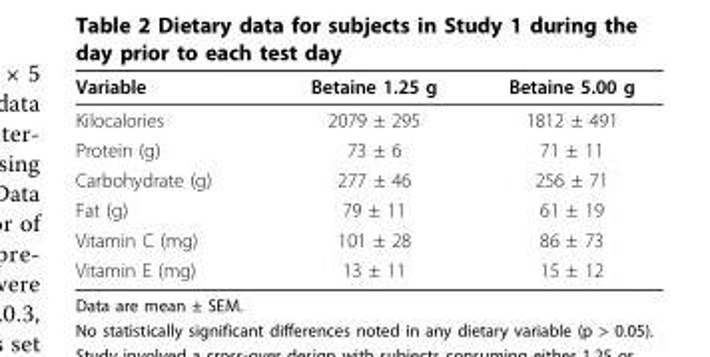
<table><thead><tr><td>Variable</td><td>Betaine 1.25 g</td><td>Betaine 5.00 g</td></tr></thead><tbody><tr><td>Kilocalories</td><td>2079 ± 295</td><td>1812 ± 491</td></tr><tr><td>Protein (g)</td><td>73 ± 6</td><td>71 ± 11</td></tr><tr><td>Carbohydrate (g)</td><td>277 ± 46</td><td>256 ± 71</td></tr><tr><td>Fat (g)</td><td>79 ± 11</td><td>61 ± 19</td></tr><tr><td>Vitamin C (mg)</td><td>101 ± 28</td><td>86 ± 73</td></tr><tr><td>Vitamin E (mg)</td><td>13 ± 11</td><td>15 ± 12</td></tr></tbody></table>